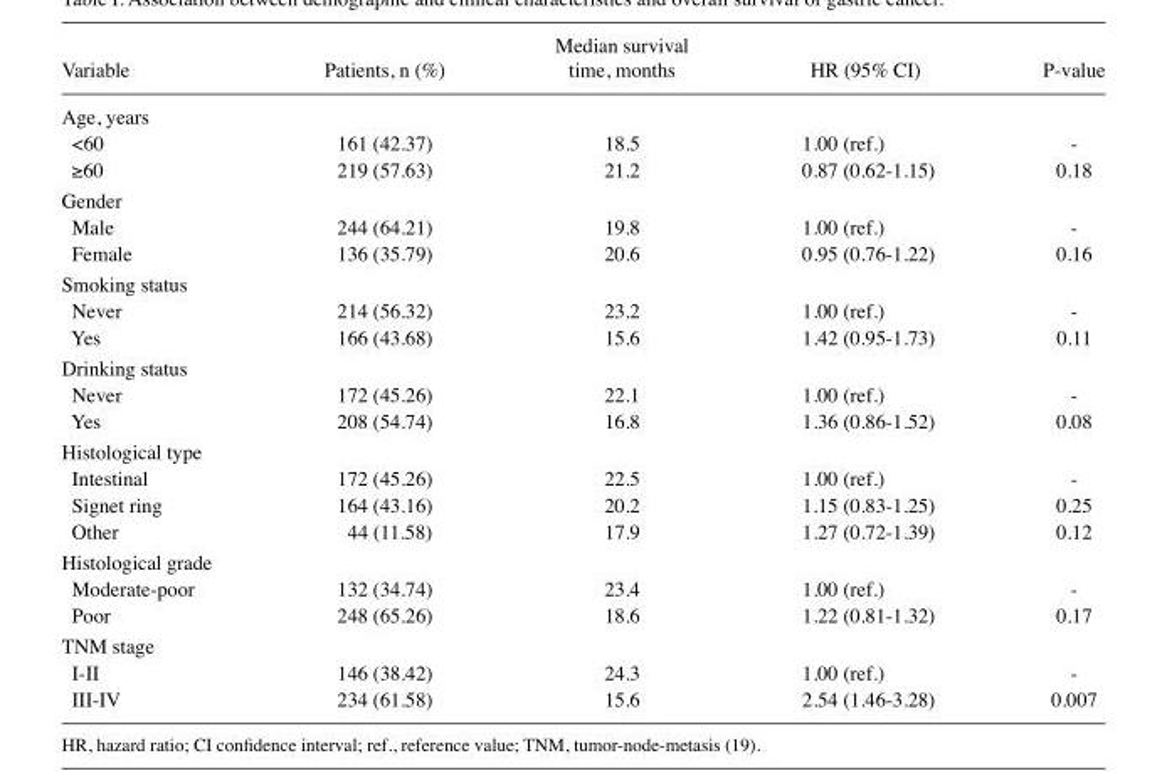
<table><thead><tr><td>Variable</td><td>Patients, n (%)</td><td>time, months</td><td>HR (95% CI)</td><td>P-value</td></tr></thead><tbody><tr><td colspan="5">Age, years</td></tr><tr><td>&lt;60</td><td>161 (42.37)</td><td>18.5</td><td>1.00 (ref.)</td><td>-</td></tr><tr><td>≥60</td><td>219 (57.63)</td><td>21.2</td><td>0.87 (0.62‑1.15)</td><td>0.18</td></tr><tr><td colspan="5">Gender</td></tr><tr><td>Male</td><td>244 (64.21)</td><td>19.8</td><td>1.00 (ref.)</td><td>-</td></tr><tr><td>Female</td><td>136 (35.79)</td><td>20.6</td><td>0.95 (0.76-1.22)</td><td>0.16</td></tr><tr><td colspan="5">Smoking status</td></tr><tr><td>Never</td><td>214 (56.32)</td><td>23.2</td><td>1.00 (ref.)</td><td>-</td></tr><tr><td>Yes</td><td>166 (43.68)</td><td>15.6</td><td>1.42 (0.95-1.73)</td><td>0.11</td></tr><tr><td colspan="5">Drinking status</td></tr><tr><td>Never</td><td>172 (45.26)</td><td>22.1</td><td>1.00 (ref.)</td><td>-</td></tr><tr><td>Yes</td><td>208 (54.74)</td><td>16.8</td><td>1.36 (0.86-1.52)</td><td>0.08</td></tr><tr><td colspan="5">Histological type</td></tr><tr><td>Intestinal</td><td>172 (45.26)</td><td>22.5</td><td>1.00 (ref.)</td><td>-</td></tr><tr><td>Signet ring</td><td>164 (43.16)</td><td>20.2</td><td>1.15 (0.83-1.25)</td><td>0.25</td></tr><tr><td>Other</td><td>44 (11.58)</td><td>17.9</td><td>1.27 (0.72-1.39)</td><td>0.12</td></tr><tr><td colspan="5">Histological grade</td></tr><tr><td>Moderate-poor</td><td>132 (34.74)</td><td>23.4</td><td>1.00 (ref.)</td><td>-</td></tr><tr><td>Poor</td><td>248 (65.26)</td><td>18.6</td><td>1.22 (0.81-1.32)</td><td>0.17</td></tr><tr><td colspan="5">TNM stage</td></tr><tr><td>I-II</td><td>146 (38.42)</td><td>24.3</td><td>1.00 (ref.)</td><td>-</td></tr><tr><td>III-IV</td><td>234 (61.58)</td><td>15.6</td><td>2.54 (1.46-3.28)</td><td>0.007</td></tr></tbody></table>